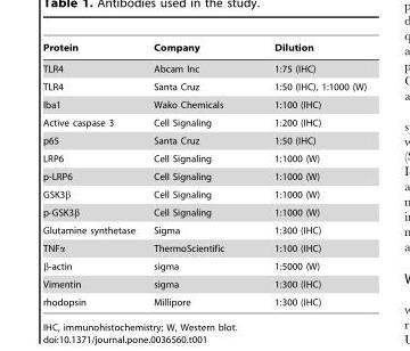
<table><thead><tr><td>Protein</td><td>Company</td><td>Dilution</td></tr></thead><tbody><tr><td>TLR4</td><td>Abcam Inc</td><td>1:75 (IHC)</td></tr><tr><td>TLR4</td><td>Santa Cruz</td><td>1:50 (IHC), 1:1000 (W)</td></tr><tr><td>Iba1</td><td>Wako Chemicals</td><td>1:100 (IHC)</td></tr><tr><td>Active caspase 3</td><td>Cell Signaling</td><td>1:200 (IHC)</td></tr><tr><td>p65</td><td>Santa Cruz</td><td>1:50 (IHC)</td></tr><tr><td>LRP6</td><td>Cell Signaling</td><td>1:1000 (W)</td></tr><tr><td>p-LRP6</td><td>Cell Signaling</td><td>1:1000 (W)</td></tr><tr><td>GSK3β</td><td>Cell Signaling</td><td>1:1000 (W)</td></tr><tr><td>p-GSK3β</td><td>Cell Signaling</td><td>1:1000 (W)</td></tr><tr><td>Glutamine synthetase</td><td>Sigma</td><td>1:300 (IHC)</td></tr><tr><td>TNFα</td><td>ThermoScientific</td><td>1:100 (IHC)</td></tr><tr><td>β-actin</td><td>sigma</td><td>1:5000 (W)</td></tr><tr><td>Vimentin</td><td>sigma</td><td>1:300 (IHC)</td></tr><tr><td>rhodopsin</td><td>Millipore</td><td>1:300 (IHC)</td></tr></tbody></table>